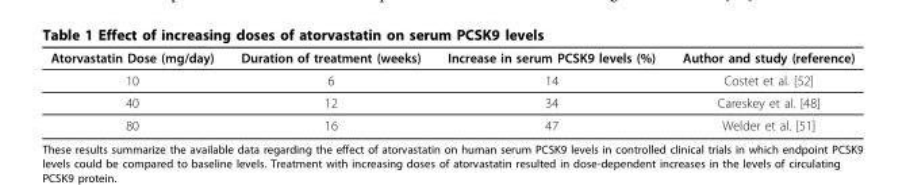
<table><thead><tr><td>Atorvastatin Dose (mg/day)</td><td>Duration of treatment (weeks)</td><td>Increase in serum PCSK9 levels (%)</td><td>Author and study (reference)</td></tr></thead><tbody><tr><td>10</td><td>6</td><td>14</td><td>Costet et al. [52]</td></tr><tr><td>40</td><td>12</td><td>34</td><td>Careskey et al. [48]</td></tr><tr><td>80</td><td>16</td><td>47</td><td>Welder et al. [51]</td></tr></tbody></table>